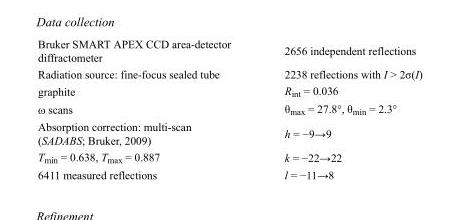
<table><tbody><tr><td>Bruker SMART APEX CCD area-detector diffractometer</td><td>2656 independent reflections</td></tr><tr><td>Radiation source: fine-focus sealed tube</td><td>2238 reflections with I &gt; 2σ(I)</td></tr><tr><td>graphite</td><td>R<sub>int</sub> = 0.036</td></tr><tr><td>ω scans</td><td>θ<sub>max</sub> = 27.8°, θ<sub>min</sub> = 2.3°</td></tr><tr><td>Absorption correction: multi-scan (SADABS; Bruker, 2009)</td><td>h = −9→9</td></tr><tr><td>T<sub>min</sub> = 0.638, T<sub>max</sub> = 0.887</td><td>k = −22→22</td></tr><tr><td>6411 measured reflections</td><td>l = −11→8</td></tr></tbody></table>